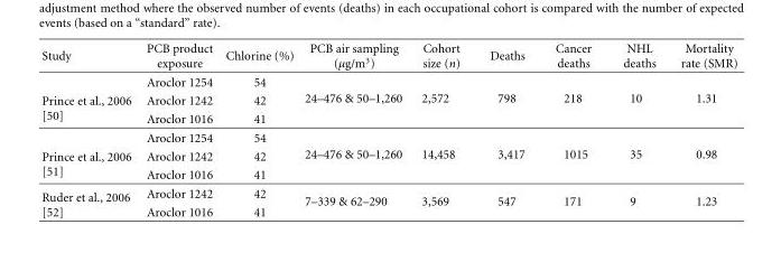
<table><thead><tr><td>Study</td><td>PCB product exposure</td><td>Chlorine (%)</td><td>PCB air sampling (μg/m<sup>3</sup>)</td><td>Cohort size (n)</td><td>Deaths</td><td>Cancer deaths</td><td>NHL deaths</td><td>Mortality rate (SMR)</td></tr></thead><tbody><tr><td rowspan="3">Prince et al., 2006 [50]</td><td>Aroclor 1254</td><td>54</td><td rowspan="3">24–476 &amp; 50–1,260</td><td rowspan="3">2,572</td><td rowspan="3">798</td><td rowspan="3">218</td><td rowspan="3">10</td><td rowspan="3">1.31</td></tr><tr><td>Aroclor 1242</td><td>42</td></tr><tr><td>Aroclor 1016</td><td>41</td></tr><tr><td rowspan="3">Prince et al., 2006 [51]</td><td>Aroclor 1254</td><td>54</td><td rowspan="3">24–476 &amp; 50–1,260</td><td rowspan="3">14,458</td><td rowspan="3">3,417</td><td rowspan="3">1015</td><td rowspan="3">35</td><td rowspan="3">0.98</td></tr><tr><td>Aroclor 1242</td><td>42</td></tr><tr><td>Aroclor 1016</td><td>41</td></tr><tr><td rowspan="2">Ruder et al., 2006 [52]</td><td>Aroclor 1242</td><td>42</td><td rowspan="2">7–339 &amp; 62–290</td><td rowspan="2">3,569</td><td rowspan="2">547</td><td rowspan="2">171</td><td rowspan="2">9</td><td rowspan="2">1.23</td></tr><tr><td>Aroclor 1016</td><td>41</td></tr></tbody></table>